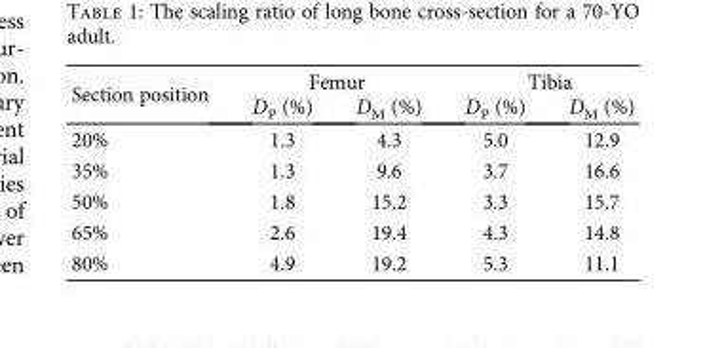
<table><thead><tr><td rowspan="2">Section position</td><td colspan="2">Femur</td><td colspan="2">Tibia</td></tr><tr><td>D<sub>P</sub> (%)</td><td>D<sub>M</sub> (%)</td><td>D<sub>P</sub> (%)</td><td>D<sub>M</sub> (%)</td></tr></thead><tbody><tr><td>20%</td><td>1.3</td><td>4.3</td><td>5.0</td><td>12.9</td></tr><tr><td>35%</td><td>1.3</td><td>9.6</td><td>3.7</td><td>16.6</td></tr><tr><td>50%</td><td>1.8</td><td>15.2</td><td>3.3</td><td>15.7</td></tr><tr><td>65%</td><td>2.6</td><td>19.4</td><td>4.3</td><td>14.8</td></tr><tr><td>80%</td><td>4.9</td><td>19.2</td><td>5.3</td><td>11.1</td></tr></tbody></table>